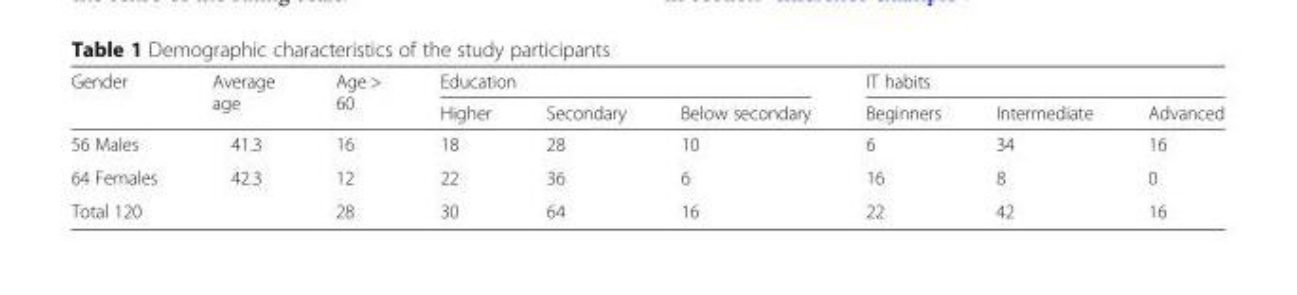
<table><thead><tr><td rowspan="2">Gender</td><td rowspan="2">Average age</td><td rowspan="2">Age &gt; 60</td><td colspan="3">Education</td><td colspan="3">IT habits</td></tr><tr><td>Higher</td><td>Secondary</td><td>Below secondary</td><td>Beginners</td><td>Intermediate</td><td>Advanced</td></tr></thead><tbody><tr><td>56 Males</td><td>41.3</td><td>16</td><td>18</td><td>28</td><td>10</td><td>6</td><td>34</td><td>16</td></tr><tr><td>64 Females</td><td>42.3</td><td>12</td><td>22</td><td>36</td><td>6</td><td>16</td><td>8</td><td>0</td></tr><tr><td>Total 120</td><td></td><td>28</td><td>30</td><td>64</td><td>16</td><td>22</td><td>42</td><td>16</td></tr></tbody></table>